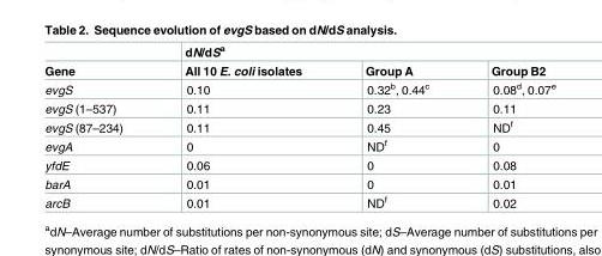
<table><thead><tr><td rowspan="2">Gene</td><td colspan="3">dN/dS<sup>a</sup></td></tr><tr><td>All 10 E. coli isolates</td><td>Group A</td><td>Group B2</td></tr></thead><tbody><tr><td>evgS</td><td>0.10</td><td>0.32<sup>b</sup>, 0.44<sup>c</sup></td><td>0.08<sup>d</sup>, 0.07<sup>e</sup></td></tr><tr><td>evgS (1–537)</td><td>0.11</td><td>0.23</td><td>0.11</td></tr><tr><td>evgS (87–234)</td><td>0.11</td><td>0.45</td><td>ND<sup>f</sup></td></tr><tr><td>evgA</td><td>0</td><td>ND<sup>f</sup></td><td>0</td></tr><tr><td>yfdE</td><td>0.06</td><td>0</td><td>0.08</td></tr><tr><td>barA</td><td>0.01</td><td>0</td><td>0.01</td></tr><tr><td>arcB</td><td>0.01</td><td>ND<sup>f</sup></td><td>0.02</td></tr></tbody></table>